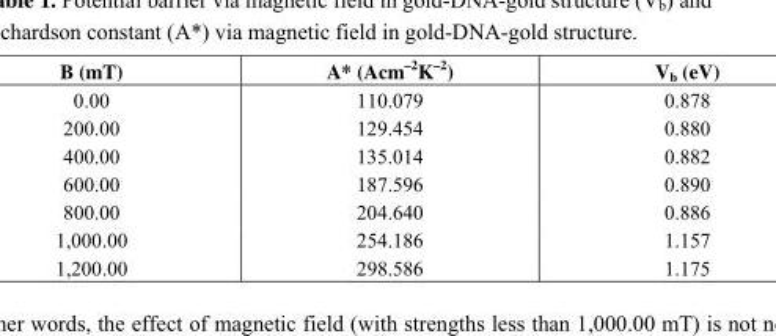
<table><thead><tr><td>B (mT)</td><td>A* (Acm<sup>–2</sup>K<sup>–2</sup>)</td><td>V<sub>b</sub> (eV)</td></tr></thead><tbody><tr><td>0.00</td><td>110.079</td><td>0.878</td></tr><tr><td>200.00</td><td>129.454</td><td>0.880</td></tr><tr><td>400.00</td><td>135.014</td><td>0.882</td></tr><tr><td>600.00</td><td>187.596</td><td>0.890</td></tr><tr><td>800.00</td><td>204.640</td><td>0.886</td></tr><tr><td>1,000.00</td><td>254.186</td><td>1.157</td></tr><tr><td>1,200.00</td><td>298.586</td><td>1.175</td></tr></tbody></table>